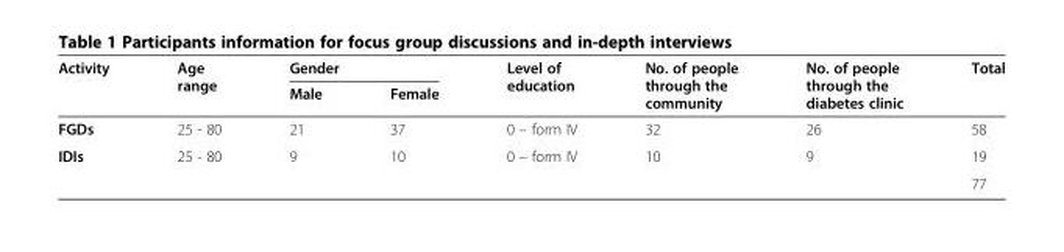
<table><thead><tr><td rowspan="2">Activity</td><td rowspan="2">Age range</td><td colspan="2">Gender</td><td rowspan="2">Level of education</td><td rowspan="2">No. of people through the community</td><td rowspan="2">No. of people through the diabetes clinic</td><td rowspan="2">Total</td></tr><tr><td>Male</td><td>Female</td></tr></thead><tbody><tr><td>FGDs</td><td>25 - 80</td><td>21</td><td>37</td><td>0 – form IV</td><td>32</td><td>26</td><td>58</td></tr><tr><td rowspan="2">IDIs</td><td>25 - 80</td><td>9</td><td>10</td><td>0 – form IV</td><td>10</td><td>9</td><td>19</td></tr><tr><td></td><td></td><td></td><td></td><td></td><td></td><td>77</td></tr></tbody></table>